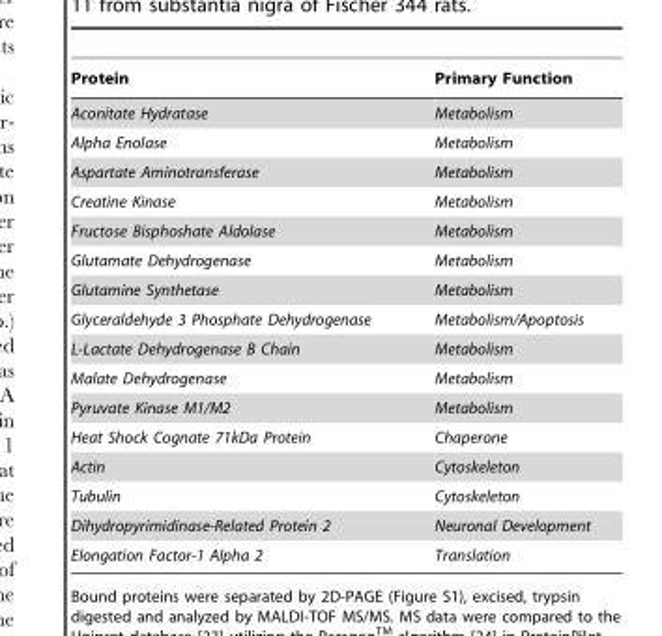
<table><thead><tr><td>Protein</td><td>Primary Function</td></tr></thead><tbody><tr><td>Aconitate Hydratase</td><td>Metabolism</td></tr><tr><td>Alpha Enolase</td><td>Metabolism</td></tr><tr><td>Aspartate Aminotransferase</td><td>Metabolism</td></tr><tr><td>Creatine Kinase</td><td>Metabolism</td></tr><tr><td>Fructose Bisphoshate Aldolase</td><td>Metabolism</td></tr><tr><td>Glutamate Dehydrogenase</td><td>Metabolism</td></tr><tr><td>Glutamine Synthetase</td><td>Metabolism</td></tr><tr><td>Glyceraldehyde 3 Phosphate Dehydrogenase</td><td>Metabolism/Apoptosis</td></tr><tr><td>L-Lactate Dehydrogenase B Chain</td><td>Metabolism</td></tr><tr><td>Malate Dehydrogenase</td><td>Metabolism</td></tr><tr><td>Pyruvate Kinase M1/M2</td><td>Metabolism</td></tr><tr><td>Heat Shock Cognate 71kDa Protein</td><td>Chaperone</td></tr><tr><td>Actin</td><td>Cytoskeleton</td></tr><tr><td>Tubulin</td><td>Cytoskeleton</td></tr><tr><td>Dihydropyrimidinase-Related Protein 2</td><td>Neuronal Development</td></tr><tr><td>Elongation Factor-1 Alpha 2</td><td>Translation</td></tr></tbody></table>